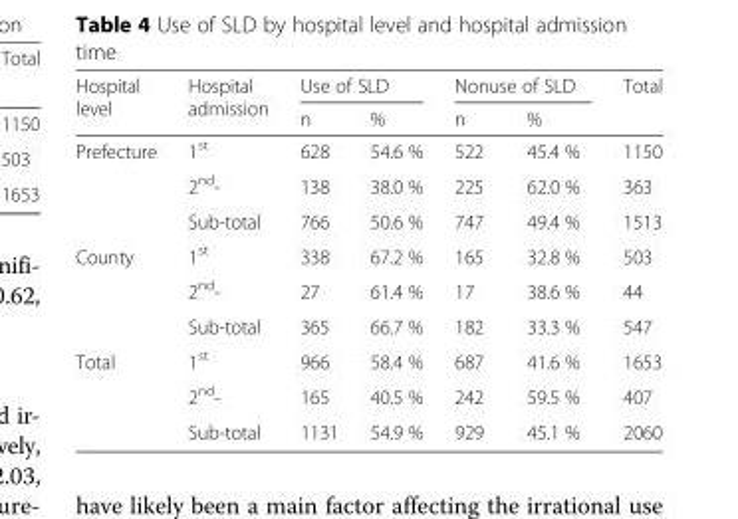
<table><thead><tr><td rowspan="2">Hospital level</td><td rowspan="2">Hospital admission</td><td colspan="2">Use of SLD</td><td colspan="2">Nonuse of SLD</td><td rowspan="2">Total</td></tr><tr><td>n</td><td>%</td><td>n</td><td>%</td></tr></thead><tbody><tr><td rowspan="3">Prefecture</td><td>1<sup>st</sup></td><td>628</td><td>54.6 %</td><td>522</td><td>45.4 %</td><td>1150</td></tr><tr><td>2<sup>nd</sup>-</td><td>138</td><td>38.0 %</td><td>225</td><td>62.0 %</td><td>363</td></tr><tr><td>Sub-total</td><td>766</td><td>50.6 %</td><td>747</td><td>49.4 %</td><td>1513</td></tr><tr><td rowspan="3">County</td><td>1<sup>st</sup></td><td>338</td><td>67.2 %</td><td>165</td><td>32.8 %</td><td>503</td></tr><tr><td>2<sup>nd</sup>-</td><td>27</td><td>61.4 %</td><td>17</td><td>38.6 %</td><td>44</td></tr><tr><td>Sub-total</td><td>365</td><td>66.7 %</td><td>182</td><td>33.3 %</td><td>547</td></tr><tr><td rowspan="3">Total</td><td>1<sup>st</sup></td><td>966</td><td>58.4 %</td><td>687</td><td>41.6 %</td><td>1653</td></tr><tr><td>2<sup>nd</sup>-</td><td>165</td><td>40.5 %</td><td>242</td><td>59.5 %</td><td>407</td></tr><tr><td>Sub-total</td><td>1131</td><td>54.9 %</td><td>929</td><td>45.1 %</td><td>2060</td></tr></tbody></table>